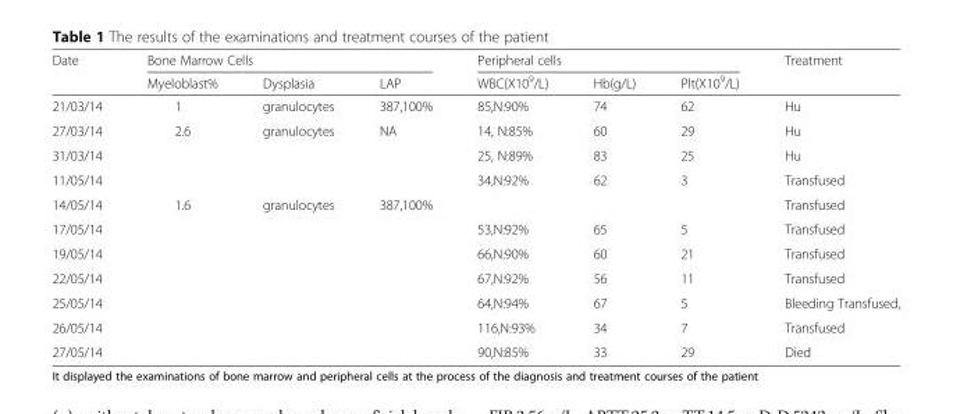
<table><thead><tr><td rowspan="2">Date</td><td colspan="3">Bone Marrow Cells</td><td colspan="3">Peripheral cells</td><td rowspan="2">Treatment</td></tr><tr><td>Myeloblast%</td><td>Dysplasia</td><td>LAP</td><td>WBC(X10<sup>9</sup>/L)</td><td>Hb(g/L)</td><td>Plt(X10<sup>9</sup>/L)</td></tr></thead><tbody><tr><td>21/03/14</td><td>1</td><td>granulocytes</td><td>387,100%</td><td>85,N:90%</td><td>74</td><td>62</td><td>Hu</td></tr><tr><td>27/03/14</td><td>2.6</td><td>granulocytes</td><td>NA</td><td>14, N:85%</td><td>60</td><td>29</td><td>Hu</td></tr><tr><td>31/03/14</td><td></td><td></td><td></td><td>25, N:89%</td><td>83</td><td>25</td><td>Hu</td></tr><tr><td>11/05/14</td><td></td><td></td><td></td><td>34,N:92%</td><td>62</td><td>3</td><td>Transfused</td></tr><tr><td>14/05/14</td><td>1.6</td><td>granulocytes</td><td>387,100%</td><td></td><td></td><td></td><td>Transfused</td></tr><tr><td>17/05/14</td><td></td><td></td><td></td><td>53,N:92%</td><td>65</td><td>5</td><td>Transfused</td></tr><tr><td>19/05/14</td><td></td><td></td><td></td><td>66,N:90%</td><td>60</td><td>21</td><td>Transfused</td></tr><tr><td>22/05/14</td><td></td><td></td><td></td><td>67,N:92%</td><td>56</td><td>11</td><td>Transfused</td></tr><tr><td>25/05/14</td><td></td><td></td><td></td><td>64,N:94%</td><td>67</td><td>5</td><td>Bleeding Transfused,</td></tr><tr><td>26/05/14</td><td></td><td></td><td></td><td>116,N:93%</td><td>34</td><td>7</td><td>Transfused</td></tr><tr><td>27/05/14</td><td></td><td></td><td></td><td>90,N:85%</td><td>33</td><td>29</td><td>Died</td></tr></tbody></table>